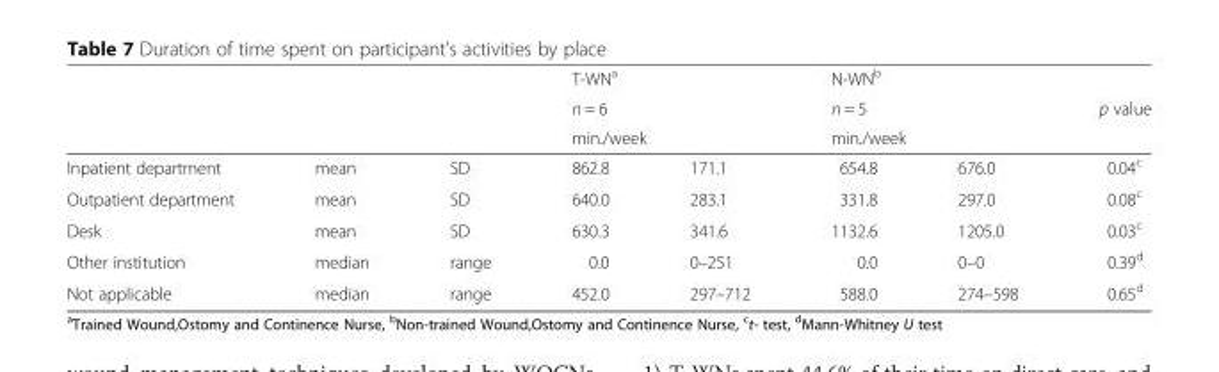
<table><thead><tr><td rowspan="4">Inpatient department</td><td rowspan="4">mean</td><td rowspan="4">SD</td><td rowspan="3" colspan="2">T-WN<sup>a</sup> n = 6 min./week</td><td rowspan="3" colspan="2">N-WN<sup>b</sup> n = 5 min./week</td><td rowspan="4">p value 0.04<sup>c</sup></td></tr><tr></tr><tr></tr><tr><td>862.8</td><td>171.1</td><td>654.8</td><td>676.0</td></tr></thead><tbody><tr><td>Outpatient department</td><td>mean</td><td>SD</td><td>640.0</td><td>283.1</td><td>331.8</td><td>297.0</td><td>0.08<sup>c</sup></td></tr><tr><td>Desk</td><td>mean</td><td>SD</td><td>630.3</td><td>341.6</td><td>1132.6</td><td>1205.0</td><td>0.03<sup>c</sup></td></tr><tr><td>Other institution</td><td>median</td><td>range</td><td>0.0</td><td>0–251</td><td>0.0</td><td>0–0</td><td>0.39<sup>d</sup></td></tr><tr><td>Not applicable</td><td>median</td><td>range</td><td>452.0</td><td>297–712</td><td>588.0</td><td>274–598</td><td>0.65<sup>d</sup></td></tr></tbody></table>